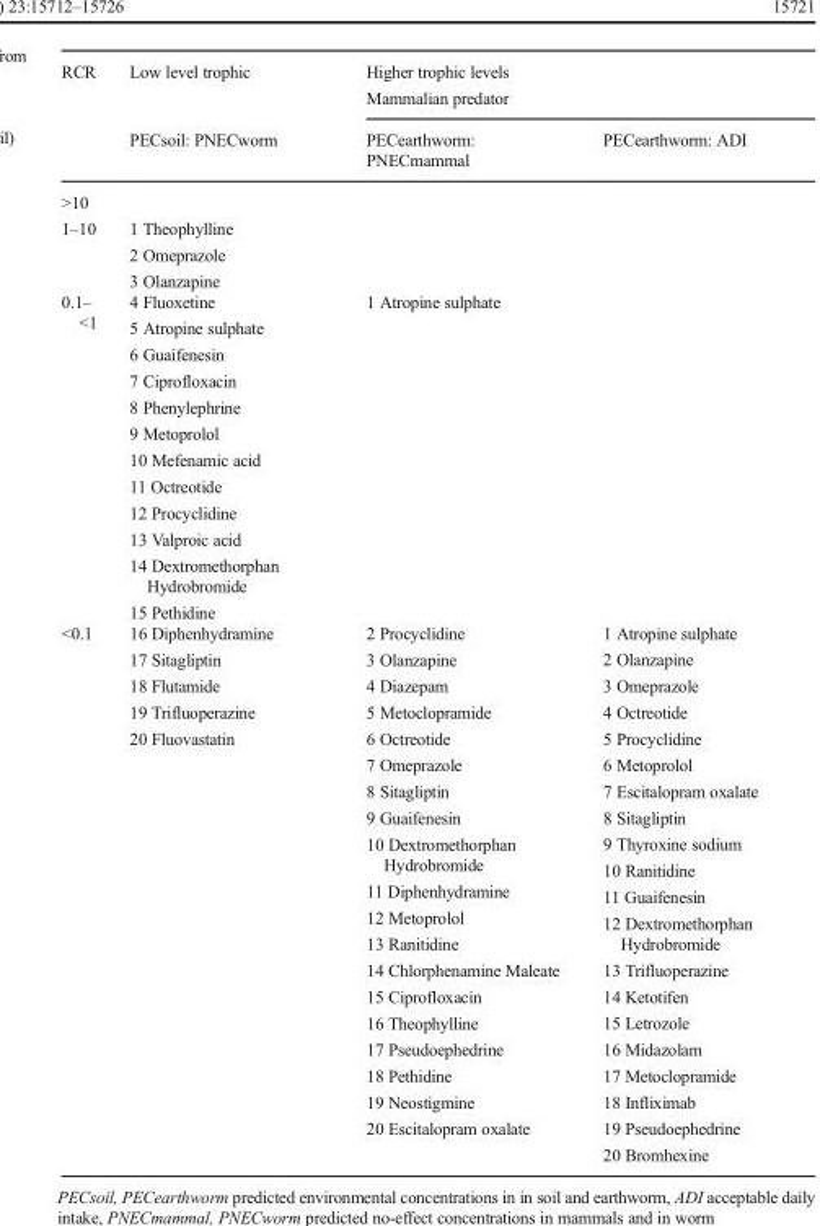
<table><thead><tr><td rowspan="2">RCR</td><td rowspan="2">Low level trophic PECsoil: PNECworm</td><td colspan="2">Higher trophic levels Mammalian predator</td></tr><tr><td>PECearthworm: PNECmammal</td><td>PECearthworm: ADI</td></tr></thead><tbody><tr><td colspan="4">&gt;10</td></tr><tr><td>1–10</td><td>1 Theophylline 2 Omeprazole 3 Olanzapine</td><td></td><td></td></tr><tr><td>0.1– &lt;1</td><td>4 Fluoxetine 5 Atropine sulphate 6 Guaifenesin 7 Ciprofloxacin 8 Phenylephrine 9 Metoprolol 10 Mefenamic acid 11 Octreotide 12 Procyclidine 13 Valproic acid 14 Dextromethorphan Hydrobromide 15 Pethidine</td><td>1 Atropine sulphate</td><td></td></tr><tr><td>&lt;0.1</td><td>16 Diphenhydramine 17 Sitagliptin 18 Flutamide 19 Trifluoperazine 20 Fluovastatin</td><td>2 Procyclidine 3 Olanzapine 4 Diazepam 5 Metoclopramide 6 Octreotide 7 Omeprazole 8 Sitagliptin 9 Guaifenesin 10 Dextromethorphan Hydrobromide 11 Diphenhydramine 12 Metoprolol 13 Ranitidine 14 Chlorphenamine Maleate 15 Ciprofloxacin 16 Theophylline 17 Pseudoephedrine 18 Pethidine 19 Neostigmine 20 Escitalopram oxalate</td><td>1 Atropine sulphate 2 Olanzapine 3 Omeprazole 4 Octreotide 5 Procyclidine 6 Metoprolol 7 Escitalopram oxalate 8 Sitagliptin 9 Thyroxine sodium 10 Ranitidine 11 Guaifenesin 12 Dextromethorphan Hydrobromide 13 Trifluoperazine 14 Ketotifen 15 Letrozole 16 Midazolam 17 Metoclopramide 18 Infliximab 19 Pseudoephedrine 20 Bromhexine</td></tr></tbody></table>